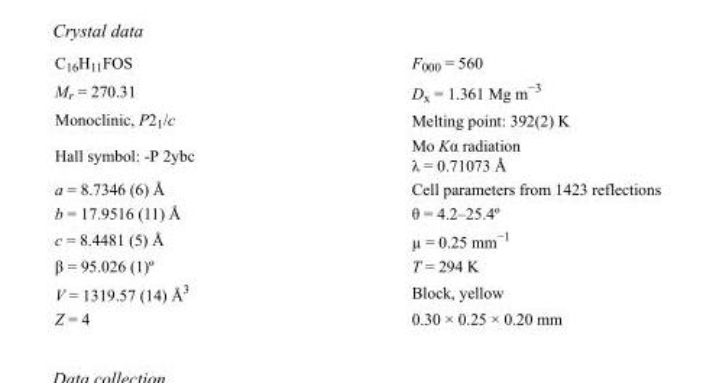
<table><tbody><tr><td>C<sub>16</sub>H<sub>11</sub>FOS</td><td>F000 = 560</td></tr><tr><td>M<sub>r</sub> = 270.31</td><td>D<sub>x</sub> = 1.361 Mg m<sup>−3</sup></td></tr><tr><td>Monoclinic, P2<sub>1</sub>/c</td><td>Melting point: 392(2) K</td></tr><tr><td>Hall symbol: -P 2ybc</td><td>Mo Kα radiation λ = 0.71073 Å</td></tr><tr><td>a = 8.7346 (6) Å</td><td>Cell parameters from 1423 reflections</td></tr><tr><td>b = 17.9516 (11) Å</td><td>θ = 4.2–25.4º</td></tr><tr><td>c = 8.4481 (5) Å</td><td>µ = 0.25 mm<sup>−1</sup></td></tr><tr><td>β = 95.026 (1)º</td><td>T = 294 K</td></tr><tr><td>V = 1319.57 (14) Å<sup>3</sup></td><td>Block, yellow</td></tr><tr><td>Z = 4</td><td>0.30 × 0.25 × 0.20 mm</td></tr></tbody></table>